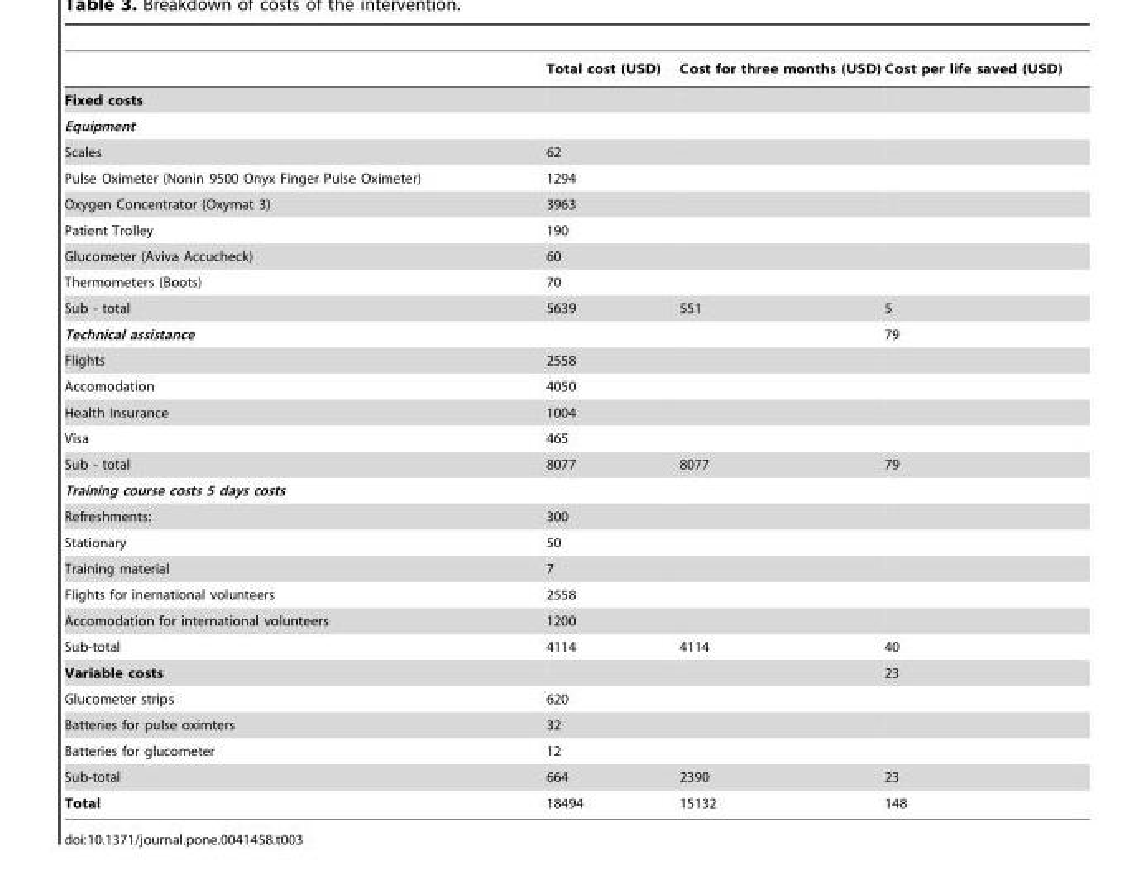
<table><thead><tr><td></td><td>Total cost (USD)</td><td>Cost for three months (USD)</td><td>Cost per life saved (USD)</td></tr></thead><tbody><tr><td colspan="4">Fixed costs</td></tr><tr><td colspan="4">Equipment</td></tr><tr><td>Scales</td><td>62</td><td></td><td></td></tr><tr><td>Pulse Oximeter (Nonin 9500 Onyx Finger Pulse Oximeter)</td><td>1294</td><td></td><td></td></tr><tr><td>Oxygen Concentrator (Oxymat 3)</td><td>3963</td><td></td><td></td></tr><tr><td>Patient Trolley</td><td>190</td><td></td><td></td></tr><tr><td>Glucometer (Aviva Accucheck)</td><td>60</td><td></td><td></td></tr><tr><td>Thermometers (Boots)</td><td>70</td><td></td><td></td></tr><tr><td>Sub - total</td><td>5639</td><td>551</td><td>5</td></tr><tr><td>Technical assistance</td><td></td><td></td><td>79</td></tr><tr><td>Flights</td><td>2558</td><td></td><td></td></tr><tr><td>Accomodation</td><td>4050</td><td></td><td></td></tr><tr><td>Health Insurance</td><td>1004</td><td></td><td></td></tr><tr><td>Visa</td><td>465</td><td></td><td></td></tr><tr><td>Sub - total</td><td>8077</td><td>8077</td><td>79</td></tr><tr><td colspan="4">Training course costs 5 days costs</td></tr><tr><td>Refreshments:</td><td>300</td><td></td><td></td></tr><tr><td>Stationary</td><td>50</td><td></td><td></td></tr><tr><td>Training material</td><td>7</td><td></td><td></td></tr><tr><td>Flights for inernational volunteers</td><td>2558</td><td></td><td></td></tr><tr><td>Accomodation for international volunteers</td><td>1200</td><td></td><td></td></tr><tr><td>Sub-total</td><td>4114</td><td>4114</td><td>40</td></tr><tr><td>Variable costs</td><td></td><td></td><td>23</td></tr><tr><td>Glucometer strips</td><td>620</td><td></td><td></td></tr><tr><td>Batteries for pulse oximters</td><td>32</td><td></td><td></td></tr><tr><td>Batteries for glucometer</td><td>12</td><td></td><td></td></tr><tr><td>Sub-total</td><td>664</td><td>2390</td><td>23</td></tr><tr><td>Total</td><td>18494</td><td>15132</td><td>148</td></tr></tbody></table>